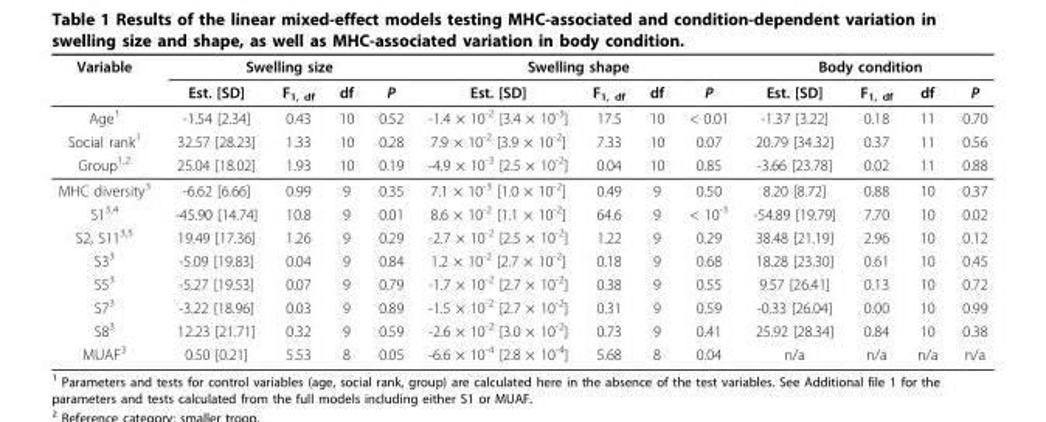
<table><thead><tr><td rowspan="2">Variable</td><td colspan="4">Swelling size</td><td colspan="4">Swelling shape</td><td colspan="4">Body condition</td></tr><tr><td>Est. [SD]</td><td>F<sub>1, df</sub></td><td>df</td><td>P</td><td>Est. [SD]</td><td>F<sub>1, df</sub></td><td>df</td><td>P</td><td>Est. [SD]</td><td>F<sub>1, df</sub></td><td>df</td><td>P</td></tr></thead><tbody><tr><td>Age<sup>1</sup></td><td>-1.54 [2.34]</td><td>0.43</td><td>10</td><td>0.52</td><td>-1.4 × 10<sup>-2</sup> [3.4 × 10<sup>-3</sup>]</td><td>17.5</td><td>10</td><td>&lt; 0.01</td><td>-1.37 [3.22]</td><td>0.18</td><td>11</td><td>0.70</td></tr><tr><td>Social rank<sup>1</sup></td><td>32.57 [28.23]</td><td>1.33</td><td>10</td><td>0.28</td><td>7.9 × 10<sup>-2</sup> [3.9 × 10<sup>-2</sup>]</td><td>7.33</td><td>10</td><td>0.07</td><td>20.79 [34.32]</td><td>0.37</td><td>11</td><td>0.56</td></tr><tr><td>Group<sup>1,2</sup></td><td>25.04 [18.02]</td><td>1.93</td><td>10</td><td>0.19</td><td>-4.9 × 10<sup>-3</sup> [2.5 × 10<sup>-2</sup>]</td><td>0.04</td><td>10</td><td>0.85</td><td>-3.66 [23.78]</td><td>0.02</td><td>11</td><td>0.88</td></tr><tr><td>MHC diversity<sup>3</sup></td><td>-6.62 [6.66]</td><td>0.99</td><td>9</td><td>0.35</td><td>7.1 × 10<sup>-3</sup> [1.0 × 10<sup>-2</sup>]</td><td>0.49</td><td>9</td><td>0.50</td><td>8.20 [8.72]</td><td>0.88</td><td>10</td><td>0.37</td></tr><tr><td>S1<sup>3,4</sup></td><td>-45.90 [14.74]</td><td>10.8</td><td>9</td><td>0.01</td><td>8.6 × 10<sup>-2</sup> [1.1 × 10<sup>-2</sup>]</td><td>64.6</td><td>9</td><td>&lt; 10<sup>-3</sup></td><td>-54.89 [19.79]</td><td>7.70</td><td>10</td><td>0.02</td></tr><tr><td>S2, S11<sup>3,5</sup></td><td>19.49 [17.36]</td><td>1.26</td><td>9</td><td>0.29</td><td>-2.7 × 10<sup>-2</sup> [2.5 × 10<sup>-2</sup>]</td><td>1.22</td><td>9</td><td>0.29</td><td>38.48 [21.19]</td><td>2.96</td><td>10</td><td>0.12</td></tr><tr><td>S3<sup>3</sup></td><td>-5.09 [19.83]</td><td>0.04</td><td>9</td><td>0.84</td><td>1.2 × 10<sup>-2</sup> [2.7 × 10<sup>-2</sup>]</td><td>0.18</td><td>9</td><td>0.68</td><td>18.28 [23.30]</td><td>0.61</td><td>10</td><td>0.45</td></tr><tr><td>S5<sup>3</sup></td><td>-5.27 [19.53]</td><td>0.07</td><td>9</td><td>0.79</td><td>-1.7 × 10<sup>-2</sup> [2.7 × 10<sup>-2</sup>]</td><td>0.38</td><td>9</td><td>0.55</td><td>9.57 [26.41]</td><td>0.13</td><td>10</td><td>0.72</td></tr><tr><td>S7<sup>3</sup></td><td>-3.22 [18.96]</td><td>0.03</td><td>9</td><td>0.89</td><td>-1.5 × 10<sup>-2</sup> [2.7 × 10<sup>-2</sup>]</td><td>0.31</td><td>9</td><td>0.59</td><td>-0.33 [26.04]</td><td>0.00</td><td>10</td><td>0.99</td></tr><tr><td>S8<sup>3</sup></td><td>12.23 [21.71]</td><td>0.32</td><td>9</td><td>0.59</td><td>-2.6 × 10<sup>-2</sup> [3.0 × 10<sup>-2</sup>]</td><td>0.73</td><td>9</td><td>0.41</td><td>25.92 [28.34]</td><td>0.84</td><td>10</td><td>0.38</td></tr><tr><td>MUAF<sup>3</sup></td><td>0.50 [0.21]</td><td>5.53</td><td>8</td><td>0.05</td><td>-6.6 × 10<sup>-4</sup> [2.8 × 10<sup>-4</sup>]</td><td>5.68</td><td>8</td><td>0.04</td><td>n/a</td><td>n/a</td><td>n/a</td><td>n/a</td></tr></tbody></table>